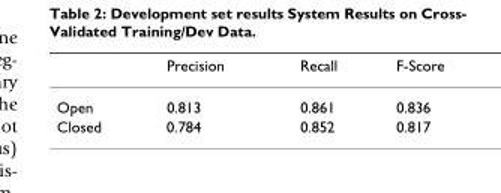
<table><thead><tr><td></td><td>Precision</td><td>Recall</td><td>F-Score</td></tr></thead><tbody><tr><td>Open</td><td>0.813</td><td>0.861</td><td>0.836</td></tr><tr><td>Closed</td><td>0.784</td><td>0.852</td><td>0.817</td></tr></tbody></table>